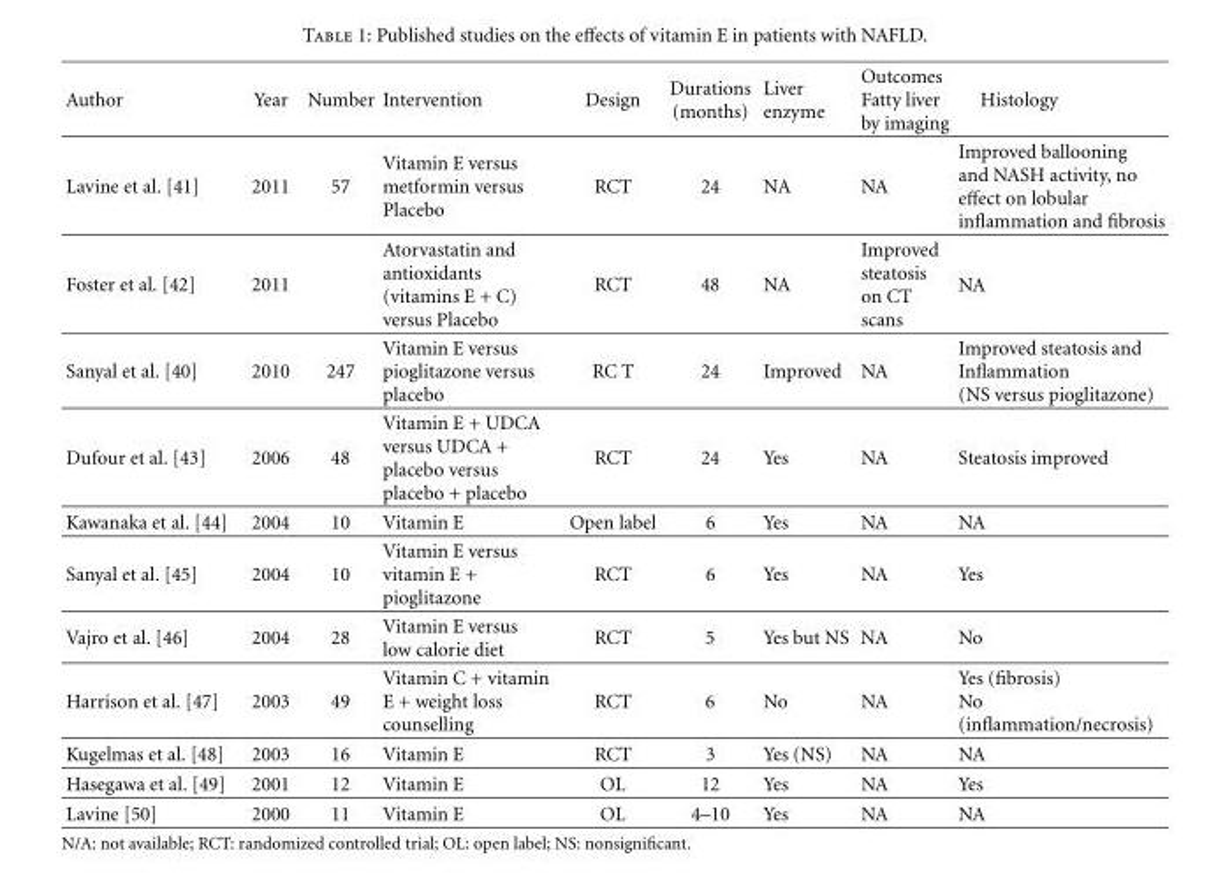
<table><thead><tr><td>Author</td><td>Year</td><td>Number</td><td>Intervention</td><td>Design</td><td>Durations (months)</td><td>Liver enzyme</td><td>Outcomes Fatty liver by imaging</td><td>Histology</td></tr></thead><tbody><tr><td>Lavine et al. [41]</td><td>2011</td><td>57</td><td>Vitamin E versus metformin versus Placebo</td><td>RCT</td><td>24</td><td>NA</td><td>NA</td><td>Improved ballooning and NASH activity, no effect on lobular inflammation and fibrosis</td></tr><tr><td>Foster et al. [42]</td><td>2011</td><td></td><td>Atorvastatin and antioxidants (vitamins E + C) versus Placebo</td><td>RCT</td><td>48</td><td>NA</td><td>Improved steatosis on CT scans</td><td>NA</td></tr><tr><td>Sanyal et al. [40]</td><td>2010</td><td>247</td><td>Vitamin E versus pioglitazone versus placebo</td><td>RC T</td><td>24</td><td>Improved</td><td>NA</td><td>Improved steatosis and Inflammation (NS versus pioglitazone)</td></tr><tr><td>Dufour et al. [43]</td><td>2006</td><td>48</td><td>Vitamin E + UDCA versus UDCA + placebo versus placebo + placebo</td><td>RCT</td><td>24</td><td>Yes</td><td>NA</td><td>Steatosis improved</td></tr><tr><td>Kawanaka et al. [44]</td><td>2004</td><td>10</td><td>Vitamin E</td><td>Open label</td><td>6</td><td>Yes</td><td>NA</td><td>NA</td></tr><tr><td>Sanyal et al. [45]</td><td>2004</td><td>10</td><td>Vitamin E versus vitamin E + pioglitazone</td><td>RCT</td><td>6</td><td>Yes</td><td>NA</td><td>Yes</td></tr><tr><td>Vajro et al. [46]</td><td>2004</td><td>28</td><td>Vitamin E versus low calorie diet</td><td>RCT</td><td>5</td><td>Yes but NS</td><td>NA</td><td>No</td></tr><tr><td>Harrison et al. [47]</td><td>2003</td><td>49</td><td>Vitamin C + vitamin E + weight loss counselling</td><td>RCT</td><td>6</td><td>No</td><td>NA</td><td>Yes (fibrosis) No (inflammation/necrosis)</td></tr><tr><td>Kugelmas et al. [48]</td><td>2003</td><td>16</td><td>Vitamin E</td><td>RCT</td><td>3</td><td>Yes (NS)</td><td>NA</td><td>NA</td></tr><tr><td>Hasegawa et al. [49]</td><td>2001</td><td>12</td><td>Vitamin E</td><td>OL</td><td>12</td><td>Yes</td><td>NA</td><td>Yes</td></tr><tr><td>Lavine [50]</td><td>2000</td><td>11</td><td>Vitamin E</td><td>OL</td><td>4–10</td><td>Yes</td><td>NA</td><td>NA</td></tr></tbody></table>